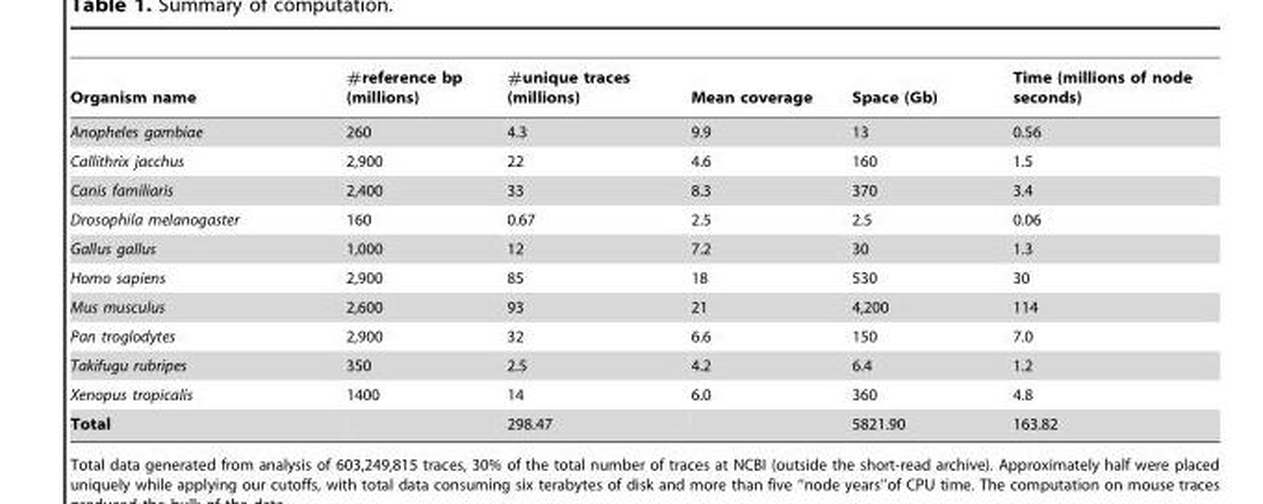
<table><thead><tr><td>Organism name</td><td>#reference bp (millions)</td><td>#unique traces (millions)</td><td>Mean coverage</td><td>Space (Gb)</td><td>Time (millions of node seconds)</td></tr></thead><tbody><tr><td>Anopheles gambiae</td><td>260</td><td>4.3</td><td>9.9</td><td>13</td><td>0.56</td></tr><tr><td>Callithrix jacchus</td><td>2,900</td><td>22</td><td>4.6</td><td>160</td><td>1.5</td></tr><tr><td>Canis familiaris</td><td>2,400</td><td>33</td><td>8.3</td><td>370</td><td>3.4</td></tr><tr><td>Drosophila melanogaster</td><td>160</td><td>0.67</td><td>2.5</td><td>2.5</td><td>0.06</td></tr><tr><td>Gallus gallus</td><td>1,000</td><td>12</td><td>7.2</td><td>30</td><td>1.3</td></tr><tr><td>Homo sapiens</td><td>2,900</td><td>85</td><td>18</td><td>530</td><td>30</td></tr><tr><td>Mus musculus</td><td>2,600</td><td>93</td><td>21</td><td>4,200</td><td>114</td></tr><tr><td>Pan troglodytes</td><td>2,900</td><td>32</td><td>6.6</td><td>150</td><td>7.0</td></tr><tr><td>Takifugu rubripes</td><td>350</td><td>2.5</td><td>4.2</td><td>6.4</td><td>1.2</td></tr><tr><td>Xenopus tropicalis</td><td>1400</td><td>14</td><td>6.0</td><td>360</td><td>4.8</td></tr><tr><td>Total</td><td></td><td>298.47</td><td></td><td>5821.90</td><td>163.82</td></tr></tbody></table>